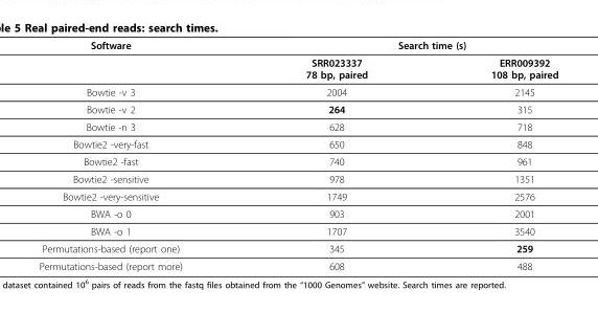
<table><thead><tr><td rowspan="2">Software</td><td colspan="2">Search time (s)</td></tr><tr><td>SRR023337 78 bp, paired</td><td>ERR009392 108 bp, paired</td></tr></thead><tbody><tr><td>Bowtie -v 3</td><td>2004</td><td>2145</td></tr><tr><td>Bowtie -v 2</td><td>264</td><td>315</td></tr><tr><td>Bowtie -n 3</td><td>628</td><td>718</td></tr><tr><td>Bowtie2 -very-fast</td><td>650</td><td>848</td></tr><tr><td>Bowtie2 -fast</td><td>740</td><td>961</td></tr><tr><td>Bowtie2 -sensitive</td><td>978</td><td>1351</td></tr><tr><td>Bowtie2 -very-sensitive</td><td>1749</td><td>2576</td></tr><tr><td>BWA -o 0</td><td>903</td><td>2001</td></tr><tr><td>BWA -o 1</td><td>1707</td><td>3540</td></tr><tr><td>Permutations-based (report one)</td><td>345</td><td>259</td></tr><tr><td>Permutations-based (report more)</td><td>608</td><td>488</td></tr></tbody></table>